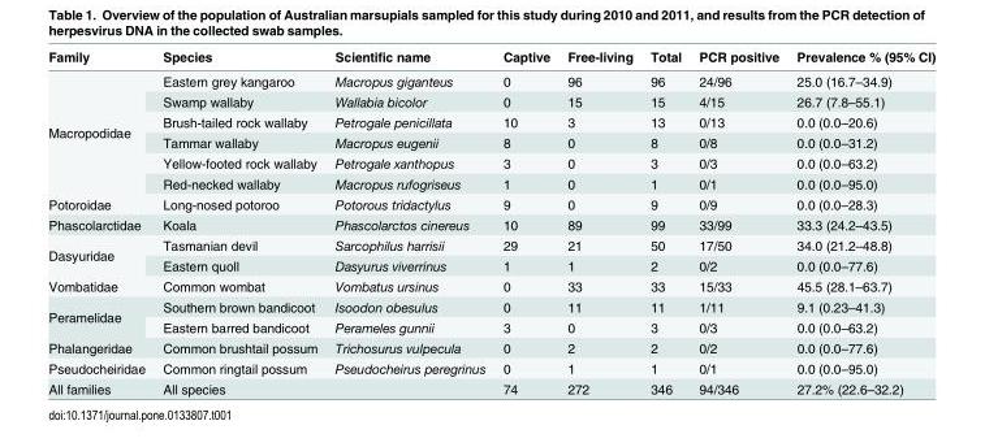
<table><thead><tr><td>Family</td><td>Species</td><td>Scientific name</td><td>Captive</td><td>Free-living</td><td>Total</td><td>PCR positive</td><td>Prevalence % (95% CI)</td></tr></thead><tbody><tr><td rowspan="6">Macropodidae</td><td>Eastern grey kangaroo</td><td>Macropus giganteus</td><td>0</td><td>96</td><td>96</td><td>24/96</td><td>25.0 (16.7–34.9)</td></tr><tr><td>Swamp wallaby</td><td>Wallabia bicolor</td><td>0</td><td>15</td><td>15</td><td>4/15</td><td>26.7 (7.8–55.1)</td></tr><tr><td>Brush-tailed rock wallaby</td><td>Petrogale penicillata</td><td>10</td><td>3</td><td>13</td><td>0/13</td><td>0.0 (0.0–20.6)</td></tr><tr><td>Tammar wallaby</td><td>Macropus eugenii</td><td>8</td><td>0</td><td>8</td><td>0/8</td><td>0.0 (0.0–31.2)</td></tr><tr><td>Yellow-footed rock wallaby</td><td>Petrogale xanthopus</td><td>3</td><td>0</td><td>3</td><td>0/3</td><td>0.0 (0.0–63.2)</td></tr><tr><td>Red-necked wallaby</td><td>Macropus rufogriseus</td><td>1</td><td>0</td><td>1</td><td>0/1</td><td>0.0 (0.0–95.0)</td></tr><tr><td>Potoroidae</td><td>Long-nosed potoroo</td><td>Potorous tridactylus</td><td>9</td><td>0</td><td>9</td><td>0/9</td><td>0.0 (0.0–28.3)</td></tr><tr><td>Phascolarctidae</td><td>Koala</td><td>Phascolarctos cinereus</td><td>10</td><td>89</td><td>99</td><td>33/99</td><td>33.3 (24.2–43.5)</td></tr><tr><td rowspan="2">Dasyuridae</td><td>Tasmanian devil</td><td>Sarcophilus harrisii</td><td>29</td><td>21</td><td>50</td><td>17/50</td><td>34.0 (21.2–48.8)</td></tr><tr><td>Eastern quoll</td><td>Dasyurus viverrinus</td><td>1</td><td>1</td><td>2</td><td>0/2</td><td>0.0 (0.0–77.6)</td></tr><tr><td>Vombatidae</td><td>Common wombat</td><td>Vombatus ursinus</td><td>0</td><td>33</td><td>33</td><td>15/33</td><td>45.5 (28.1–63.7)</td></tr><tr><td rowspan="2">Peramelidae</td><td>Southern brown bandicoot</td><td>Isoodon obesulus</td><td>0</td><td>11</td><td>11</td><td>1/11</td><td>9.1 (0.23–41.3)</td></tr><tr><td>Eastern barred bandicoot</td><td>Perameles gunnii</td><td>3</td><td>0</td><td>3</td><td>0/3</td><td>0.0 (0.0–63.2)</td></tr><tr><td>Phalangeridae</td><td>Common brushtail possum</td><td>Trichosurus vulpecula</td><td>0</td><td>2</td><td>2</td><td>0/2</td><td>0.0 (0.0–77.6)</td></tr><tr><td>Pseudocheiridae</td><td>Common ringtail possum</td><td>Pseudocheirus peregrinus</td><td>0</td><td>1</td><td>1</td><td>0/1</td><td>0.0 (0.0–95.0)</td></tr><tr><td>All families</td><td>All species</td><td></td><td>74</td><td>272</td><td>346</td><td>94/346</td><td>27.2% (22.6–32.2)</td></tr></tbody></table>